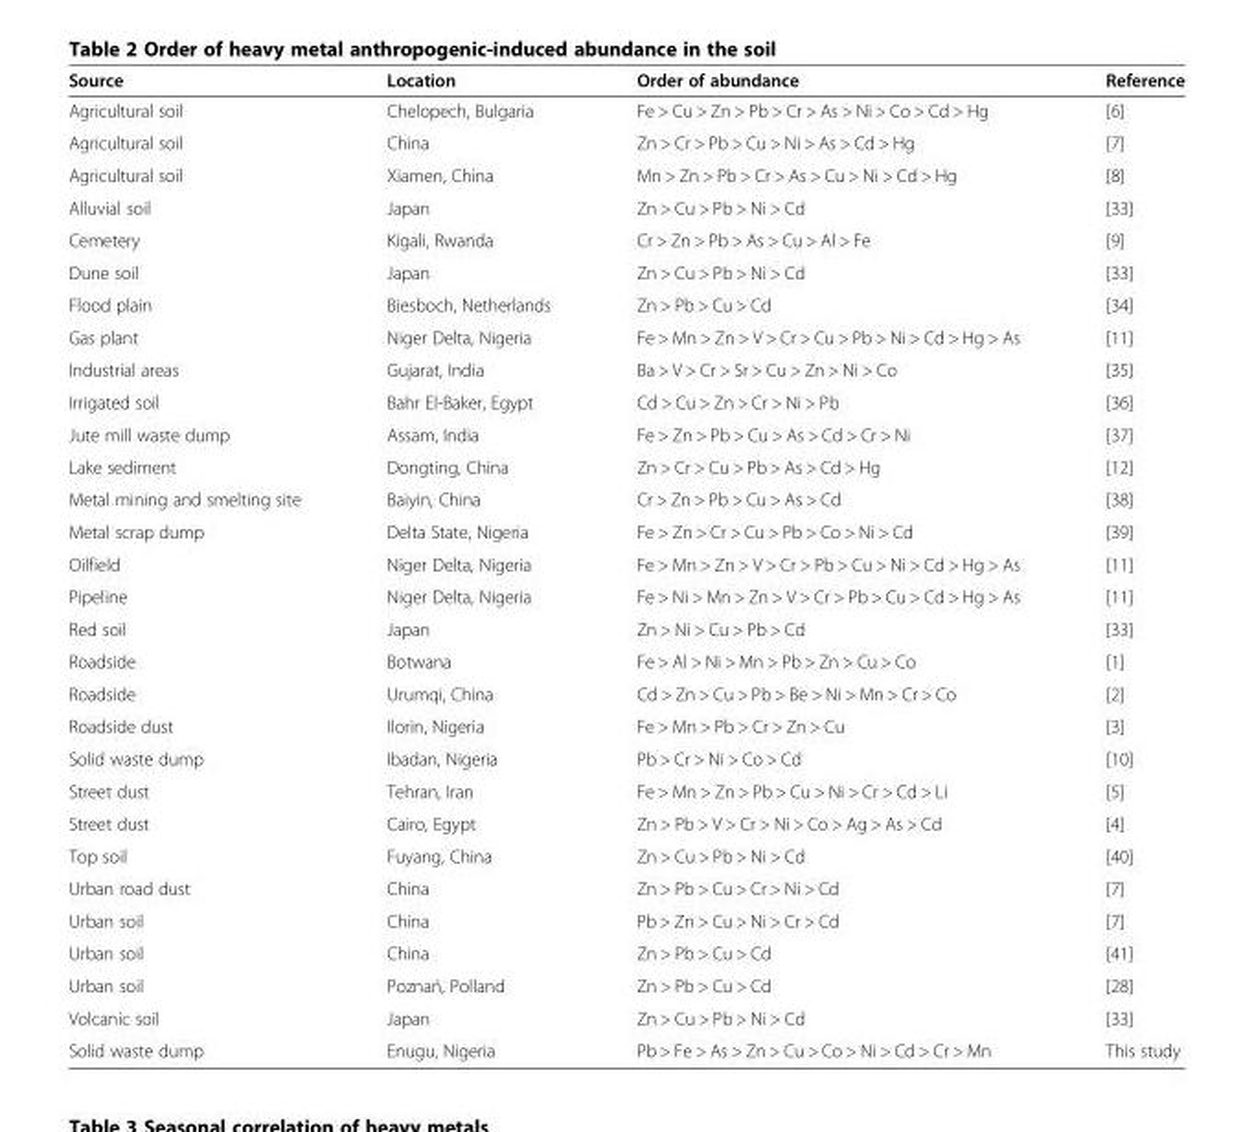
<table><thead><tr><td>Source</td><td>Location</td><td>Order of abundance</td><td>Reference</td></tr></thead><tbody><tr><td>Agricultural soil</td><td>Chelopech, Bulgaria</td><td>Fe &gt; Cu &gt; Zn &gt; Pb &gt; Cr &gt; As &gt; Ni &gt; Co &gt; Cd &gt; Hg</td><td>[6]</td></tr><tr><td>Agricultural soil</td><td>China</td><td>Zn &gt; Cr &gt; Pb &gt; Cu &gt; Ni &gt; As &gt; Cd &gt; Hg</td><td>[7]</td></tr><tr><td>Agricultural soil</td><td>Xiamen, China</td><td>Mn &gt; Zn &gt; Pb &gt; Cr &gt; As &gt; Cu &gt; Ni &gt; Cd &gt; Hg</td><td>[8]</td></tr><tr><td>Alluvial soil</td><td>Japan</td><td>Zn &gt; Cu &gt; Pb &gt; Ni &gt; Cd</td><td>[33]</td></tr><tr><td>Cemetery</td><td>Kigali, Rwanda</td><td>Cr &gt; Zn &gt; Pb &gt; As &gt; Cu &gt; Al &gt; Fe</td><td>[9]</td></tr><tr><td>Dune soil</td><td>Japan</td><td>Zn &gt; Cu &gt; Pb &gt; Ni &gt; Cd</td><td>[33]</td></tr><tr><td>Flood plain</td><td>Biesboch, Netherlands</td><td>Zn &gt; Pb &gt; Cu &gt; Cd</td><td>[34]</td></tr><tr><td>Gas plant</td><td>Niger Delta, Nigeria</td><td>Fe &gt; Mn &gt; Zn &gt; V &gt; Cr &gt; Cu &gt; Pb &gt; Ni &gt; Cd &gt; Hg &gt; As</td><td>[11]</td></tr><tr><td>Industrial areas</td><td>Gujarat, India</td><td>Ba &gt; V &gt; Cr &gt; Sr &gt; Cu &gt; Zn &gt; Ni &gt; Co</td><td>[35]</td></tr><tr><td>Irrigated soil</td><td>Bahr El-Baker, Egypt</td><td>Cd &gt; Cu &gt; Zn &gt; Cr &gt; Ni &gt; Pb</td><td>[36]</td></tr><tr><td>Jute mill waste dump</td><td>Assam, India</td><td>Fe &gt; Zn &gt; Pb &gt; Cu &gt; As &gt; Cd &gt; Cr &gt; Ni</td><td>[37]</td></tr><tr><td>Lake sediment</td><td>Dongting, China</td><td>Zn &gt; Cr &gt; Cu &gt; Pb &gt; As &gt; Cd &gt; Hg</td><td>[12]</td></tr><tr><td>Metal mining and smelting site</td><td>Baiyin, China</td><td>Cr &gt; Zn &gt; Pb &gt; Cu &gt; As &gt; Cd</td><td>[38]</td></tr><tr><td>Metal scrap dump</td><td>Delta State, Nigeria</td><td>Fe &gt; Zn &gt; Cr &gt; Cu &gt; Pb &gt; Co &gt; Ni &gt; Cd</td><td>[39]</td></tr><tr><td>Oilfield</td><td>Niger Delta, Nigeria</td><td>Fe &gt; Mn &gt; Zn &gt; V &gt; Cr &gt; Pb &gt; Cu &gt; Ni &gt; Cd &gt; Hg &gt; As</td><td>[11]</td></tr><tr><td>Pipeline</td><td>Niger Delta, Nigeria</td><td>Fe &gt; Ni &gt; Mn &gt; Zn &gt; V &gt; Cr &gt; Pb &gt; Cu &gt; Cd &gt; Hg &gt; As</td><td>[11]</td></tr><tr><td>Red soil</td><td>Japan</td><td>Zn &gt; Ni &gt; Cu &gt; Pb &gt; Cd</td><td>[33]</td></tr><tr><td>Roadside</td><td>Botwana</td><td>Fe &gt; Al &gt; Ni &gt; Mn &gt; Pb &gt; Zn &gt; Cu &gt; Co</td><td>[1]</td></tr><tr><td>Roadside</td><td>Urumqi, China</td><td>Cd &gt; Zn &gt; Cu &gt; Pb &gt; Be &gt; Ni &gt; Mn &gt; Cr &gt; Co</td><td>[2]</td></tr><tr><td>Roadside dust</td><td>Ilorin, Nigeria</td><td>Fe &gt; Mn &gt; Pb &gt; Cr &gt; Zn &gt; Cu</td><td>[3]</td></tr><tr><td>Solid waste dump</td><td>Ibadan, Nigeria</td><td>Pb &gt; Cr &gt; Ni &gt; Co &gt; Cd</td><td>[10]</td></tr><tr><td>Street dust</td><td>Tehran, Iran</td><td>Fe &gt; Mn &gt; Zn &gt; Pb &gt; Cu &gt; Ni &gt; Cr &gt; Cd &gt; Li</td><td>[5]</td></tr><tr><td>Street dust</td><td>Cairo, Egypt</td><td>Zn &gt; Pb &gt; V &gt; Cr &gt; Ni &gt; Co &gt; Ag &gt; As &gt; Cd</td><td>[4]</td></tr><tr><td>Top soil</td><td>Fuyang, China</td><td>Zn &gt; Cu &gt; Pb &gt; Ni &gt; Cd</td><td>[40]</td></tr><tr><td>Urban road dust</td><td>China</td><td>Zn &gt; Pb &gt; Cu &gt; Cr &gt; Ni &gt; Cd</td><td>[7]</td></tr><tr><td>Urban soil</td><td>China</td><td>Pb &gt; Zn &gt; Cu &gt; Ni &gt; Cr &gt; Cd</td><td>[7]</td></tr><tr><td>Urban soil</td><td>China</td><td>Zn &gt; Pb &gt; Cu &gt; Cd</td><td>[41]</td></tr><tr><td>Urban soil</td><td>Poznań, Polland</td><td>Zn &gt; Pb &gt; Cu &gt; Cd</td><td>[28]</td></tr><tr><td>Volcanic soil</td><td>Japan</td><td>Zn &gt; Cu &gt; Pb &gt; Ni &gt; Cd</td><td>[33]</td></tr><tr><td>Solid waste dump</td><td>Enugu, Nigeria</td><td>Pb &gt; Fe &gt; As &gt; Zn &gt; Cu &gt; Co &gt; Ni &gt; Cd &gt; Cr &gt; Mn</td><td>This study</td></tr></tbody></table>